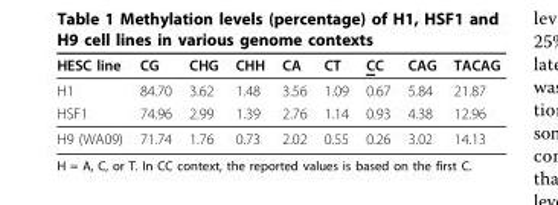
<table><thead><tr><td>HESC line</td><td>CG</td><td>CHG</td><td>CHH</td><td>CA</td><td>CT</td><td>CC</td><td>CAG</td><td>TACAG</td></tr></thead><tbody><tr><td>H1</td><td>84.70</td><td>3.62</td><td>1.48</td><td>3.56</td><td>1.09</td><td>0.67</td><td>5.84</td><td>21.87</td></tr><tr><td>HSF1</td><td>74.96</td><td>2.99</td><td>1.39</td><td>2.76</td><td>1.14</td><td>0.93</td><td>4.38</td><td>12.96</td></tr><tr><td>H9 (WA09)</td><td>71.74</td><td>1.76</td><td>0.73</td><td>2.02</td><td>0.55</td><td>0.26</td><td>3.02</td><td>14.13</td></tr></tbody></table>